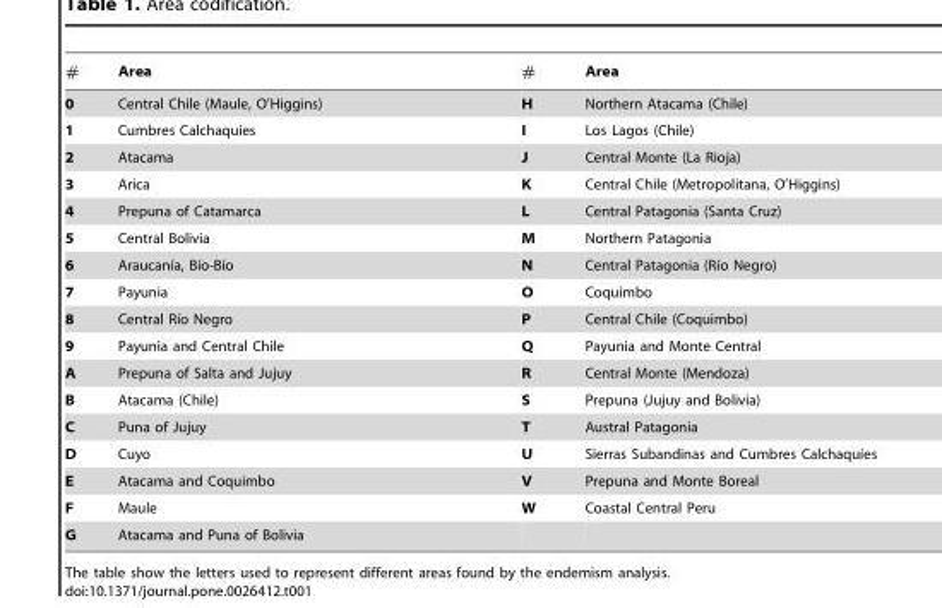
<table><thead><tr><td>#</td><td>Area</td><td>#</td><td>Area</td></tr></thead><tbody><tr><td>0</td><td>Central Chile (Maule, O’Higgins)</td><td>H</td><td>Northern Atacama (Chile)</td></tr><tr><td>1</td><td>Cumbres Calchaquies</td><td>I</td><td>Los Lagos (Chile)</td></tr><tr><td>2</td><td>Atacama</td><td>J</td><td>Central Monte (La Rioja)</td></tr><tr><td>3</td><td>Arica</td><td>K</td><td>Central Chile (Metropolitana, O’Higgins)</td></tr><tr><td>4</td><td>Prepuna of Catamarca</td><td>L</td><td>Central Patagonia (Santa Cruz)</td></tr><tr><td>5</td><td>Central Bolivia</td><td>M</td><td>Northern Patagonia</td></tr><tr><td>6</td><td>Araucanı´a, Bı´o-Bı´o</td><td>N</td><td>Central Patagonia (Rı´o Negro)</td></tr><tr><td>7</td><td>Payunia</td><td>O</td><td>Coquimbo</td></tr><tr><td>8</td><td>Central Rı´o Negro</td><td>P</td><td>Central Chile (Coquimbo)</td></tr><tr><td>9</td><td>Payunia and Central Chile</td><td>Q</td><td>Payunia and Monte Central</td></tr><tr><td>A</td><td>Prepuna of Salta and Jujuy</td><td>R</td><td>Central Monte (Mendoza)</td></tr><tr><td>B</td><td>Atacama (Chile)</td><td>S</td><td>Prepuna (Jujuy and Bolivia)</td></tr><tr><td>C</td><td>Puna of Jujuy</td><td>T</td><td>Austral Patagonia</td></tr><tr><td>D</td><td>Cuyo</td><td>U</td><td>Sierras Subandinas and Cumbres Calchaquı´es</td></tr><tr><td>E</td><td>Atacama and Coquimbo</td><td>V</td><td>Prepuna and Monte Boreal</td></tr><tr><td>F</td><td>Maule</td><td>W</td><td>Coastal Central Peru</td></tr><tr><td>G</td><td>Atacama and Puna of Bolivia</td><td></td><td></td></tr></tbody></table>